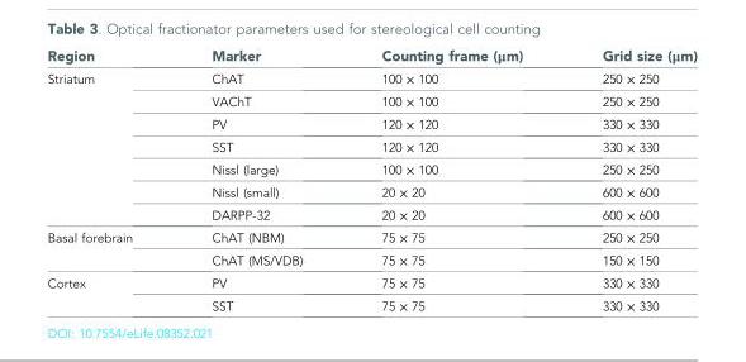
<table><thead><tr><td>Region</td><td>Marker</td><td>Counting frame (μm)</td><td>Grid size (μm)</td></tr></thead><tbody><tr><td rowspan="7">Striatum</td><td>ChAT</td><td>100 × 100</td><td>250 × 250</td></tr><tr><td>VAChT</td><td>100 × 100</td><td>250 × 250</td></tr><tr><td>PV</td><td>120 × 120</td><td>330 × 330</td></tr><tr><td>SST</td><td>120 × 120</td><td>330 × 330</td></tr><tr><td>Nissl (large)</td><td>100 × 100</td><td>250 × 250</td></tr><tr><td>Nissl (small)</td><td>20 × 20</td><td>600 × 600</td></tr><tr><td>DARPP-32</td><td>20 × 20</td><td>600 × 600</td></tr><tr><td rowspan="2">Basal forebrain</td><td>ChAT (NBM)</td><td>75 × 75</td><td>250 × 250</td></tr><tr><td>ChAT (MS/VDB)</td><td>75 × 75</td><td>150 × 150</td></tr><tr><td rowspan="2">Cortex</td><td>PV</td><td>75 × 75</td><td>330 × 330</td></tr><tr><td>SST</td><td>75 × 75</td><td>330 × 330</td></tr></tbody></table>